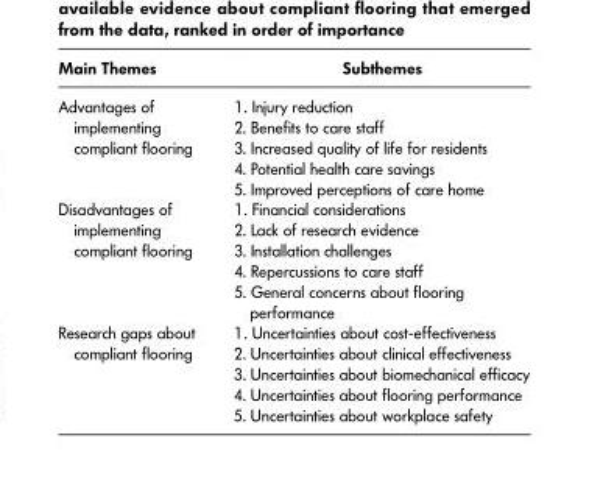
<table><thead><tr><td>Main Themes</td><td>Subthemes</td></tr></thead><tbody><tr><td>Advantages of implementing compliant flooring</td><td>1. Injury reduction 2. Benefits to care staff 3. Increased quality of life for residents 4. Potential health care savings 5. Improved perceptions of care home</td></tr><tr><td>Disadvantages of implementing compliant flooring</td><td>1. Financial considerations 2. Lack of research evidence 3. Installation challenges 4. Repercussions to care staff 5. General concerns about flooring performance</td></tr><tr><td>Research gaps about compliant flooring</td><td>1. Uncertainties about cost-effectiveness 2. Uncertainties about clinical effectiveness 3. Uncertainties about biomechanical efficacy 4. Uncertainties about flooring performance 5. Uncertainties about workplace safety</td></tr></tbody></table>